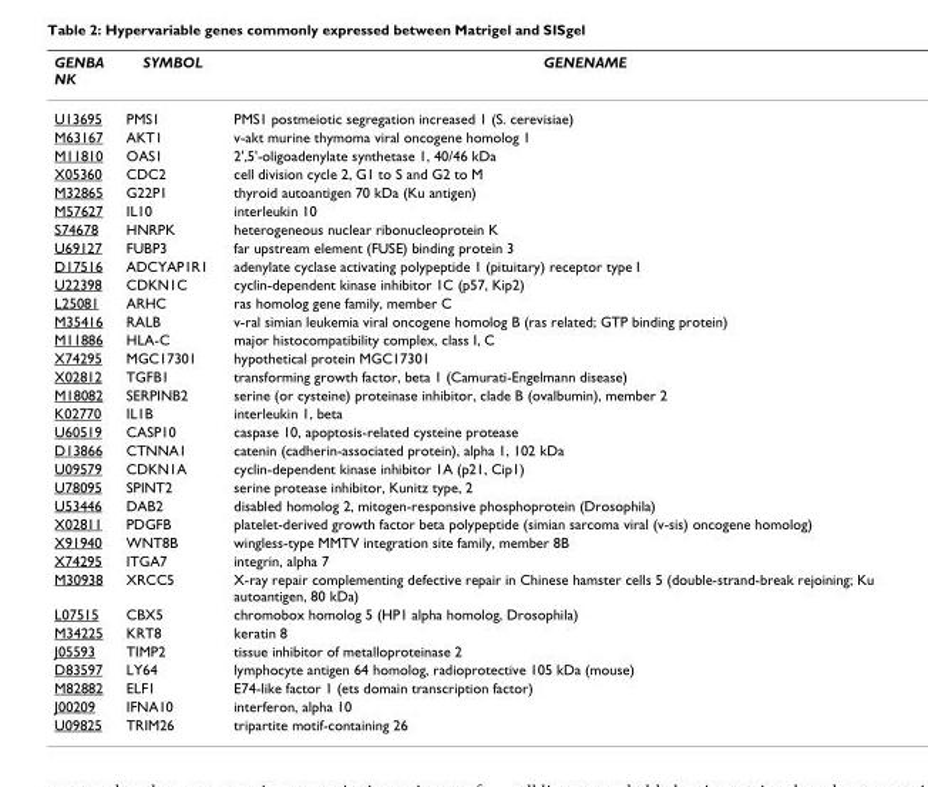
<table><thead><tr><td>GENBA NK</td><td>SYMBOL</td><td>GENENAME</td></tr></thead><tbody><tr><td>U13695</td><td>PMS1</td><td>PMS1 postmeiotic segregation increased 1 (S. cerevisiae)</td></tr><tr><td>M63167</td><td>AKT1</td><td>v-akt murine thymoma viral oncogene homolog 1</td></tr><tr><td>M11810</td><td>OAS1</td><td>2&#x27;,5&#x27;-oligoadenylate synthetase 1, 40/46 kDa</td></tr><tr><td>X05360</td><td>CDC2</td><td>cell division cycle 2, G1 to S and G2 to M</td></tr><tr><td>M32865</td><td>G22P1</td><td>thyroid autoantigen 70 kDa (Ku antigen)</td></tr><tr><td>M57627</td><td>IL10</td><td>interleukin 10</td></tr><tr><td>S74678</td><td>HNRPK</td><td>heterogeneous nuclear ribonucleoprotein K</td></tr><tr><td>U69127</td><td>FUBP3</td><td>far upstream element (FUSE) binding protein 3</td></tr><tr><td>D17516</td><td>ADCYAP1R1</td><td>adenylate cyclase activating polypeptide 1 (pituitary) receptor type I</td></tr><tr><td>U22398</td><td>CDKN1C</td><td>cyclin-dependent kinase inhibitor 1C (p57, Kip2)</td></tr><tr><td>L25081</td><td>ARHC</td><td>ras homolog gene family, member C</td></tr><tr><td>M35416</td><td>RALB</td><td>v-ral simian leukemia viral oncogene homolog B (ras related; GTP binding protein)</td></tr><tr><td>M11886</td><td>HLA-C</td><td>major histocompatibility complex, class I, C</td></tr><tr><td>X74295</td><td>MGC17301</td><td>hypothetical protein MGC17301</td></tr><tr><td>X02812</td><td>TGFB1</td><td>transforming growth factor, beta 1 (Camurati-Engelmann disease)</td></tr><tr><td>M18082</td><td>SERPINB2</td><td>serine (or cysteine) proteinase inhibitor, clade B (ovalbumin), member 2</td></tr><tr><td>K02770</td><td>IL1B</td><td>interleukin 1, beta</td></tr><tr><td>U60519</td><td>CASP10</td><td>caspase 10, apoptosis-related cysteine protease</td></tr><tr><td>D13866</td><td>CTNNA1</td><td>catenin (cadherin-associated protein), alpha 1, 102 kDa</td></tr><tr><td>U09579</td><td>CDKN1A</td><td>cyclin-dependent kinase inhibitor 1A (p21, Cip1)</td></tr><tr><td>U78095</td><td>SPINT2</td><td>serine protease inhibitor, Kunitz type, 2</td></tr><tr><td>U53446</td><td>DAB2</td><td>disabled homolog 2, mitogen-responsive phosphoprotein (Drosophila)</td></tr><tr><td>X02811</td><td>PDGFB</td><td>platelet-derived growth factor beta polypeptide (simian sarcoma viral (v-sis) oncogene homolog)</td></tr><tr><td>X91940</td><td>WNT8B</td><td>wingless-type MMTV integration site family, member 8B</td></tr><tr><td>X74295</td><td>ITGA7</td><td>integrin, alpha 7</td></tr><tr><td>M30938</td><td>XRCC5</td><td>X-ray repair complementing defective repair in Chinese hamster cells 5 (double-strand-break rejoining; Ku autoantigen, 80 kDa)</td></tr><tr><td>L07515</td><td>CBX5</td><td>chromobox homolog 5 (HP1 alpha homolog, Drosophila)</td></tr><tr><td>M34225</td><td>KRT8</td><td>keratin 8</td></tr><tr><td>J05593</td><td>TIMP2</td><td>tissue inhibitor of metalloproteinase 2</td></tr><tr><td>D83597</td><td>LY64</td><td>lymphocyte antigen 64 homolog, radioprotective 105 kDa (mouse)</td></tr><tr><td>M82882</td><td>ELF1</td><td>E74-like factor 1 (ets domain transcription factor)</td></tr><tr><td>J00209</td><td>IFNA10</td><td>interferon, alpha 10</td></tr><tr><td>U09825</td><td>TRIM26</td><td>tripartite motif-containing 26</td></tr></tbody></table>